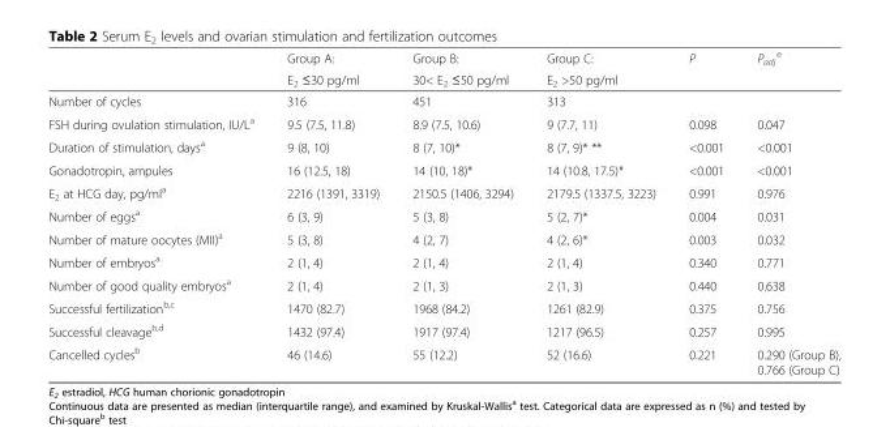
<table><thead><tr><td rowspan="2"></td><td rowspan="2">Group A: E<sub>2</sub> ≤30 pg/ml</td><td rowspan="2">Group B: 30&lt; E<sub>2</sub> ≤50 pg/ml</td><td rowspan="2">Group C: E<sub>2</sub> &gt;50 pg/ml</td><td rowspan="2">P</td><td rowspan="2">P<sub>adj</sub> <sup>e</sup></td></tr><tr></tr></thead><tbody><tr><td>Number of cycles</td><td>316</td><td>451</td><td>313</td><td></td><td></td></tr><tr><td>FSH during ovulation stimulation, IU/L<sup>a</sup></td><td>9.5 (7.5, 11.8)</td><td>8.9 (7.5, 10.6)</td><td>9 (7.7, 11)</td><td>0.098</td><td>0.047</td></tr><tr><td>Duration of stimulation, days<sup>a</sup></td><td>9 (8, 10)</td><td>8 (7, 10)*</td><td>8 (7, 9)* **</td><td>&lt;0.001</td><td>&lt;0.001</td></tr><tr><td>Gonadotropin, ampules</td><td>16 (12.5, 18)</td><td>14 (10, 18)*</td><td>14 (10.8, 17.5)*</td><td>&lt;0.001</td><td>&lt;0.001</td></tr><tr><td>E<sub>2</sub> at HCG day, pg/ml<sup>a</sup></td><td>2216 (1391, 3319)</td><td>2150.5 (1406, 3294)</td><td>2179.5 (1337.5, 3223)</td><td>0.991</td><td>0.976</td></tr><tr><td>Number of eggs<sup>a</sup></td><td>6 (3, 9)</td><td>5 (3, 8)</td><td>5 (2, 7)*</td><td>0.004</td><td>0.031</td></tr><tr><td>Number of mature oocytes (MII)<sup>a</sup></td><td>5 (3, 8)</td><td>4 (2, 7)</td><td>4 (2, 6)*</td><td>0.003</td><td>0.032</td></tr><tr><td>Number of embryos<sup>a</sup></td><td>2 (1, 4)</td><td>2 (1, 4)</td><td>2 (1, 4)</td><td>0.340</td><td>0.771</td></tr><tr><td>Number of good quality embryos<sup>a</sup></td><td>2 (1, 4)</td><td>2 (1, 3)</td><td>2 (1, 3)</td><td>0.440</td><td>0.638</td></tr><tr><td>Successful fertilization<sup>b,c</sup></td><td>1470 (82.7)</td><td>1968 (84.2)</td><td>1261 (82.9)</td><td>0.375</td><td>0.756</td></tr><tr><td>Successful cleavage<sup>b,d</sup></td><td>1432 (97.4)</td><td>1917 (97.4)</td><td>1217 (96.5)</td><td>0.257</td><td>0.995</td></tr><tr><td>Cancelled cycles<sup>b</sup></td><td>46 (14.6)</td><td>55 (12.2)</td><td>52 (16.6)</td><td>0.221</td><td>0.290 (Group B), 0.766 (Group C)</td></tr></tbody></table>